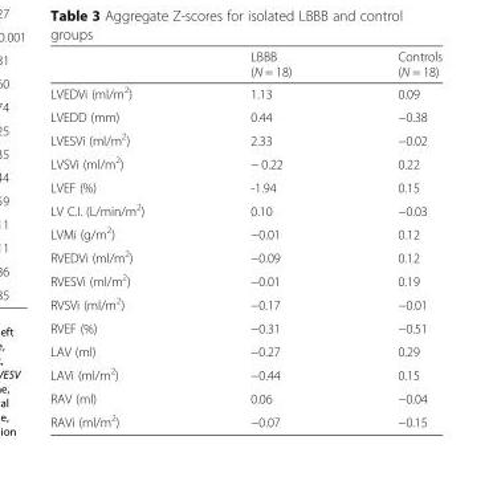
<table><thead><tr><td></td><td>LBBB (N = 18)</td><td>Controls (N = 18)</td></tr></thead><tbody><tr><td>LVEDVi (ml/m<sup>2</sup>)</td><td>1.13</td><td>0.09</td></tr><tr><td>LVEDD (mm)</td><td>0.44</td><td>−0.38</td></tr><tr><td>LVESVi (ml/m<sup>2</sup>)</td><td>2.33</td><td>−0.02</td></tr><tr><td>LVSVi (ml/m<sup>2</sup>)</td><td>− 0.22</td><td>0.22</td></tr><tr><td>LVEF (%)</td><td>-1.94</td><td>0.15</td></tr><tr><td>LV C.I. (L/min/m<sup>2</sup>)</td><td>0.10</td><td>−0.03</td></tr><tr><td>LVMi (g/m<sup>2</sup>)</td><td>−0.01</td><td>0.12</td></tr><tr><td>RVEDVi (ml/m<sup>2</sup>)</td><td>−0.09</td><td>0.12</td></tr><tr><td>RVESVi (ml/m<sup>2</sup>)</td><td>−0.01</td><td>0.19</td></tr><tr><td>RVSVi (ml/m<sup>2</sup>)</td><td>−0.17</td><td>−0.01</td></tr><tr><td>RVEF (%)</td><td>−0.31</td><td>−0.51</td></tr><tr><td>LAV (ml)</td><td>−0.27</td><td>0.29</td></tr><tr><td>LAVi (ml/m<sup>2</sup>)</td><td>−0.44</td><td>0.15</td></tr><tr><td>RAV (ml)</td><td>0.06</td><td>−0.04</td></tr><tr><td>RAVi (ml/m<sup>2</sup>)</td><td>−0.07</td><td>−0.15</td></tr></tbody></table>